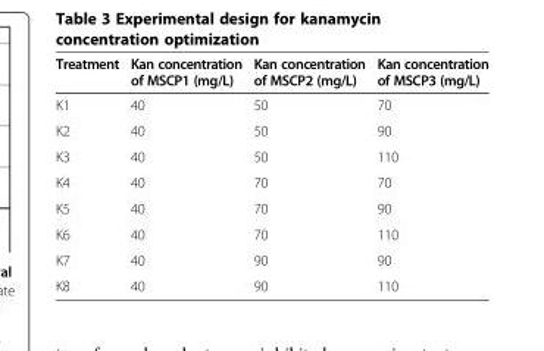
<table><thead><tr><td>Treatment</td><td>Kan concentration of MSCP1 (mg/L)</td><td>Kan concentration of MSCP2 (mg/L)</td><td>Kan concentration of MSCP3 (mg/L)</td></tr></thead><tbody><tr><td>K1</td><td>40</td><td>50</td><td>70</td></tr><tr><td>K2</td><td>40</td><td>50</td><td>90</td></tr><tr><td>K3</td><td>40</td><td>50</td><td>110</td></tr><tr><td>K4</td><td>40</td><td>70</td><td>70</td></tr><tr><td>K5</td><td>40</td><td>70</td><td>90</td></tr><tr><td>K6</td><td>40</td><td>70</td><td>110</td></tr><tr><td>K7</td><td>40</td><td>90</td><td>90</td></tr><tr><td>K8</td><td>40</td><td>90</td><td>110</td></tr></tbody></table>